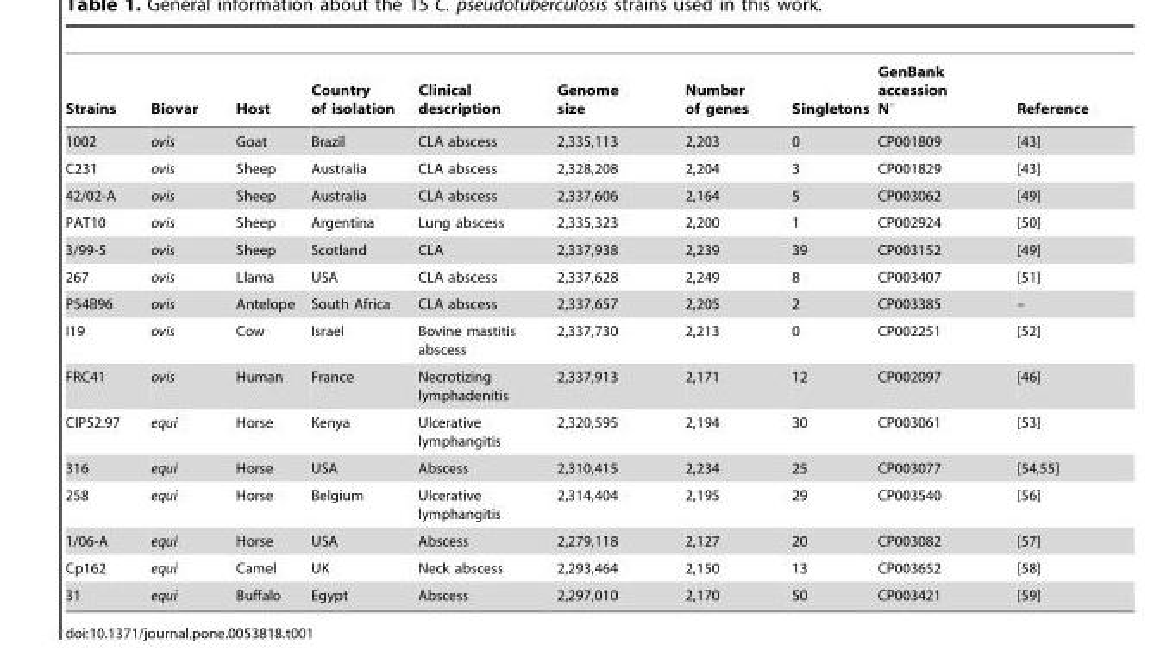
<table><thead><tr><td>Strains</td><td>Biovar</td><td>Host</td><td>Country of isolation</td><td>Clinical description</td><td>Genome size</td><td>Number of genes</td><td>Singletons</td><td>GenBank accession N°</td><td>Reference</td></tr></thead><tbody><tr><td>1002</td><td>ovis</td><td>Goat</td><td>Brazil</td><td>CLA abscess</td><td>2,335,113</td><td>2,203</td><td>0</td><td>CP001809</td><td>[43]</td></tr><tr><td>C231</td><td>ovis</td><td>Sheep</td><td>Australia</td><td>CLA abscess</td><td>2,328,208</td><td>2,204</td><td>3</td><td>CP001829</td><td>[43]</td></tr><tr><td>42/02-A</td><td>ovis</td><td>Sheep</td><td>Australia</td><td>CLA abscess</td><td>2,337,606</td><td>2,164</td><td>5</td><td>CP003062</td><td>[49]</td></tr><tr><td>PAT10</td><td>ovis</td><td>Sheep</td><td>Argentina</td><td>Lung abscess</td><td>2,335,323</td><td>2,200</td><td>1</td><td>CP002924</td><td>[50]</td></tr><tr><td>3/99-5</td><td>ovis</td><td>Sheep</td><td>Scotland</td><td>CLA</td><td>2,337,938</td><td>2,239</td><td>39</td><td>CP003152</td><td>[49]</td></tr><tr><td>267</td><td>ovis</td><td>Llama</td><td>USA</td><td>CLA abscess</td><td>2,337,628</td><td>2,249</td><td>8</td><td>CP003407</td><td>[51]</td></tr><tr><td>P54B96</td><td>ovis</td><td>Antelope</td><td>South Africa</td><td>CLA abscess</td><td>2,337,657</td><td>2,205</td><td>2</td><td>CP003385</td><td>–</td></tr><tr><td>I19</td><td>ovis</td><td>Cow</td><td>Israel</td><td>Bovine mastitis abscess</td><td>2,337,730</td><td>2,213</td><td>0</td><td>CP002251</td><td>[52]</td></tr><tr><td>FRC41</td><td>ovis</td><td>Human</td><td>France</td><td>Necrotizing lymphadenitis</td><td>2,337,913</td><td>2,171</td><td>12</td><td>CP002097</td><td>[46]</td></tr><tr><td>CIP52.97</td><td>equi</td><td>Horse</td><td>Kenya</td><td>Ulcerative lymphangitis</td><td>2,320,595</td><td>2,194</td><td>30</td><td>CP003061</td><td>[53]</td></tr><tr><td>316</td><td>equi</td><td>Horse</td><td>USA</td><td>Abscess</td><td>2,310,415</td><td>2,234</td><td>25</td><td>CP003077</td><td>[54,55]</td></tr><tr><td>258</td><td>equi</td><td>Horse</td><td>Belgium</td><td>Ulcerative lymphangitis</td><td>2,314,404</td><td>2,195</td><td>29</td><td>CP003540</td><td>[56]</td></tr><tr><td>1/06-A</td><td>equi</td><td>Horse</td><td>USA</td><td>Abscess</td><td>2,279,118</td><td>2,127</td><td>20</td><td>CP003082</td><td>[57]</td></tr><tr><td>Cp162</td><td>equi</td><td>Camel</td><td>UK</td><td>Neck abscess</td><td>2,293,464</td><td>2,150</td><td>13</td><td>CP003652</td><td>[58]</td></tr><tr><td>31</td><td>equi</td><td>Buffalo</td><td>Egypt</td><td>Abscess</td><td>2,297,010</td><td>2,170</td><td>50</td><td>CP003421</td><td>[59]</td></tr></tbody></table>